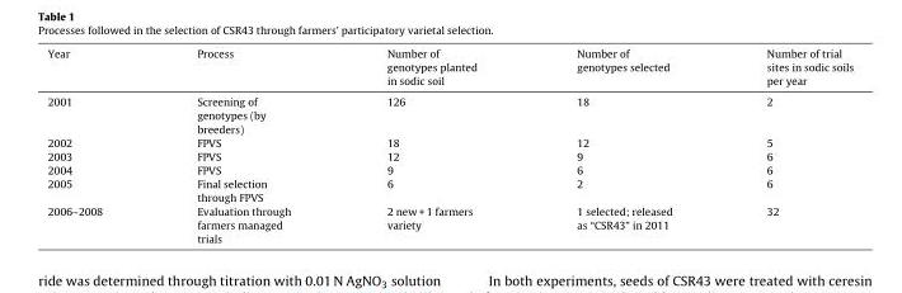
<table><thead><tr><td>Year</td><td>Process</td><td>Number of genotypes planted in sodic soil</td><td>Number of genotypes selected</td><td>Number of trial sites in sodic soils per year</td></tr></thead><tbody><tr><td>2001</td><td>Screening of genotypes (by breeders)</td><td>126</td><td>18</td><td>2</td></tr><tr><td>2002</td><td>FPVS</td><td>18</td><td>12</td><td>5</td></tr><tr><td>2003</td><td>FPVS</td><td>12</td><td>9</td><td>6</td></tr><tr><td>2004</td><td>FPVS</td><td>9</td><td>6</td><td>6</td></tr><tr><td>2005</td><td>Final selection through FPVS</td><td>6</td><td>2</td><td>6</td></tr><tr><td>2006–2008</td><td>Evaluation through farmers managed trials</td><td>2 new + 1 farmers variety</td><td>1 selected; released as “CSR43” in 2011</td><td>32</td></tr></tbody></table>